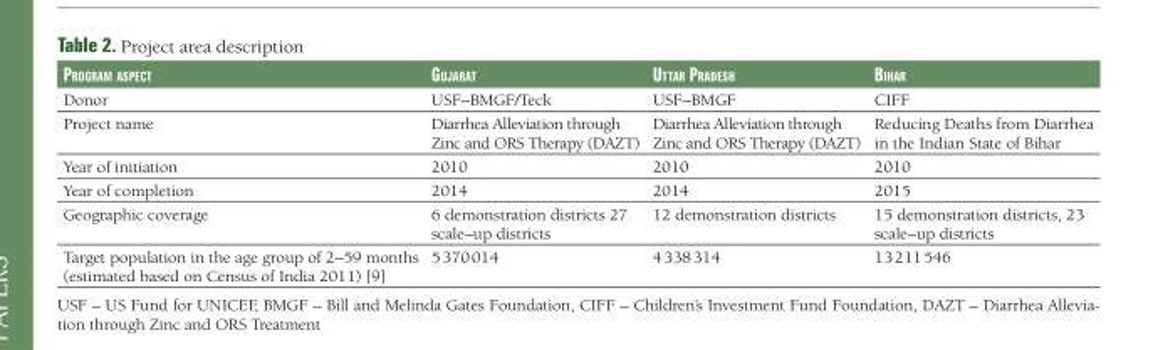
<table><thead><tr><td>ProGram asPect</td><td>Gujarat</td><td>uttar Pradesh</td><td>Bihar</td></tr></thead><tbody><tr><td>Donor</td><td>USF–BMGF/Teck</td><td>USF–BMGF</td><td>CIFF</td></tr><tr><td>Project name</td><td>Diarrhea Alleviation through Zinc and ORS Therapy (DAZT)</td><td>Diarrhea Alleviation through Zinc and ORS Therapy (DAZT)</td><td>Reducing Deaths from Diarrhea in the Indian State of Bihar</td></tr><tr><td>Year of initiation</td><td>2010</td><td>2010</td><td>2010</td></tr><tr><td>Year of completion</td><td>2014</td><td>2014</td><td>2015</td></tr><tr><td>Geographic coverage</td><td>6 demonstration districts 27 scale–up districts</td><td>12 demonstration districts</td><td>15 demonstration districts, 23 scale–up districts</td></tr><tr><td>Target population in the age group of 2–59 months (estimated based on Census of India 2011) [9]</td><td>5 370 014</td><td>4 338 314</td><td>13 211 546</td></tr></tbody></table>